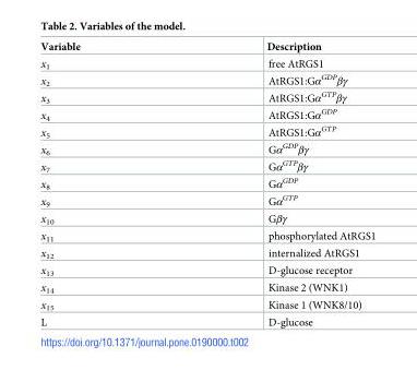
<table><thead><tr><td>Variable</td><td>Description</td></tr></thead><tbody><tr><td>x<sub>1</sub></td><td>free AtRGS1</td></tr><tr><td>x<sub>2</sub></td><td>AtRGS1:Gα<sup>GDP</sup>βγ</td></tr><tr><td>x<sub>3</sub></td><td>AtRGS1:Gα<sup>GTP</sup>βγ</td></tr><tr><td>x<sub>4</sub></td><td>AtRGS1:Gα<sup>GDP</sup></td></tr><tr><td>x<sub>5</sub></td><td>AtRGS1:Gα<sup>GTP</sup></td></tr><tr><td>x<sub>6</sub></td><td>Gα<sup>GDP</sup>βγ</td></tr><tr><td>x<sub>7</sub></td><td>Gα<sup>GTP</sup>βγ</td></tr><tr><td>x<sub>8</sub></td><td>Gα<sup>GDP</sup></td></tr><tr><td>x<sub>9</sub></td><td>Gα<sup>GTP</sup></td></tr><tr><td>x<sub>10</sub></td><td>Gβγ</td></tr><tr><td>x<sub>11</sub></td><td>phosphorylated AtRGS1</td></tr><tr><td>x<sub>12</sub></td><td>internalized AtRGS1</td></tr><tr><td>x<sub>13</sub></td><td>D-glucose receptor</td></tr><tr><td>x<sub>14</sub></td><td>Kinase 2 (WNK1)</td></tr><tr><td>x<sub>15</sub></td><td>Kinase 1 (WNK8/10)</td></tr><tr><td>L</td><td>D-glucose</td></tr></tbody></table>